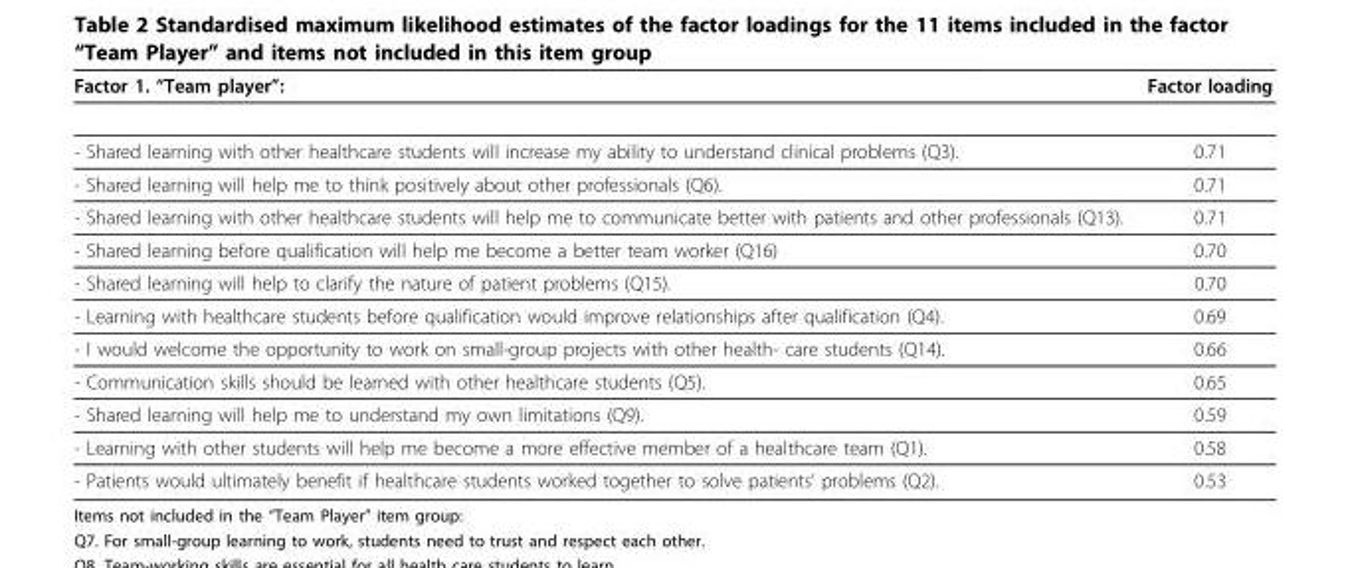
<table><thead><tr><td>Factor 1. “Team player”:</td><td>Factor loading</td></tr></thead><tbody><tr><td>- Shared learning with other healthcare students will increase my ability to understand clinical problems (Q3).</td><td>0.71</td></tr><tr><td>- Shared learning will help me to think positively about other professionals (Q6).</td><td>0.71</td></tr><tr><td>- Shared learning with other healthcare students will help me to communicate better with patients and other professionals (Q13).</td><td>0.71</td></tr><tr><td>- Shared learning before qualification will help me become a better team worker (Q16)</td><td>0.70</td></tr><tr><td>- Shared learning will help to clarify the nature of patient problems (Q15).</td><td>0.70</td></tr><tr><td>- Learning with healthcare students before qualification would improve relationships after qualification (Q4).</td><td>0.69</td></tr><tr><td>- I would welcome the opportunity to work on small-group projects with other health- care students (Q14).</td><td>0.66</td></tr><tr><td>- Communication skills should be learned with other healthcare students (Q5).</td><td>0.65</td></tr><tr><td>- Shared learning will help me to understand my own limitations (Q9).</td><td>0.59</td></tr><tr><td>- Learning with other students will help me become a more effective member of a healthcare team (Q1).</td><td>0.58</td></tr><tr><td>- Patients would ultimately benefit if healthcare students worked together to solve patients’ problems (Q2).</td><td>0.53</td></tr></tbody></table>